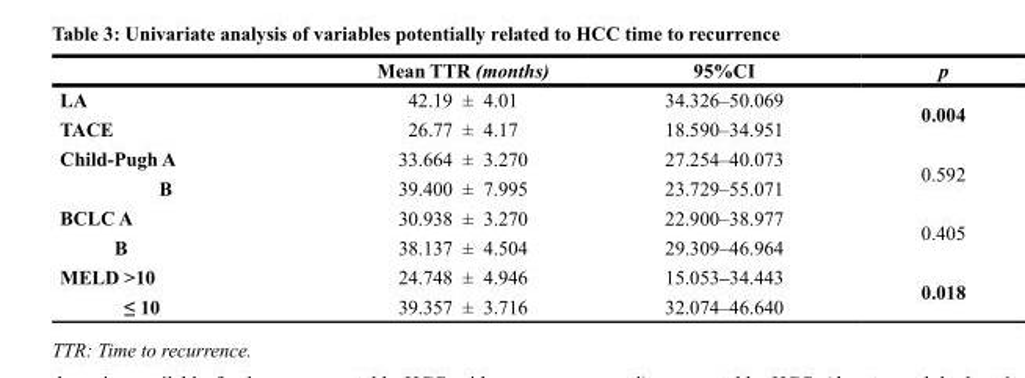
<table><thead><tr><td></td><td>Mean TTR (months)</td><td>95%CI</td><td>p</td></tr></thead><tbody><tr><td>LA</td><td>42.19 ± 4.01</td><td>34.326–50.069</td><td rowspan="2">0.004</td></tr><tr><td>TACE</td><td>26.77 ± 4.17</td><td>18.590–34.951</td></tr><tr><td>Child-Pugh A</td><td>33.664 ± 3.270</td><td>27.254–40.073</td><td rowspan="2">0.592</td></tr><tr><td>B</td><td>39.400 ± 7.995</td><td>23.729–55.071</td></tr><tr><td>BCLC A</td><td>30.938 ± 3.270</td><td>22.900–38.977</td><td rowspan="2">0.405</td></tr><tr><td>B</td><td>38.137 ± 4.504</td><td>29.309–46.964</td></tr><tr><td>MELD &gt;10</td><td>24.748 ± 4.946</td><td>15.053–34.443</td><td rowspan="2">0.018</td></tr><tr><td>≤ 10</td><td>39.357 ± 3.716</td><td>32.074–46.640</td></tr></tbody></table>